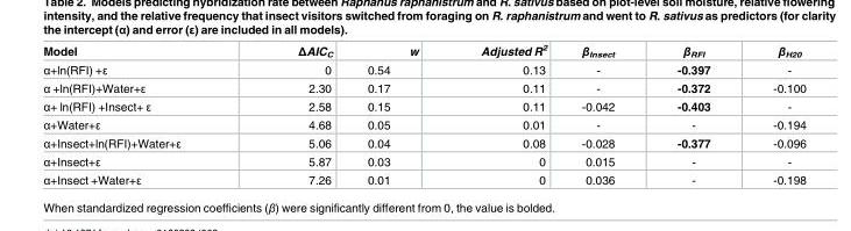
<table><thead><tr><td>Model</td><td>ΔAIC<sub>C</sub></td><td>w</td><td>Adjusted R<sup>2</sup></td><td>β<sub>Insect</sub></td><td>β<sub>RFI</sub></td><td>β<sub>H20</sub></td></tr></thead><tbody><tr><td>α+ln(RFI) +ε</td><td>0</td><td>0.54</td><td>0.13</td><td>-</td><td>-0.397</td><td>-</td></tr><tr><td>α +ln(RFI)+Water+ε</td><td>2.30</td><td>0.17</td><td>0.11</td><td>-</td><td>-0.372</td><td>-0.100</td></tr><tr><td>α+ ln(RFI) +Insect+ ε</td><td>2.58</td><td>0.15</td><td>0.11</td><td>-0.042</td><td>-0.403</td><td>-</td></tr><tr><td>α+Water+ε</td><td>4.68</td><td>0.05</td><td>0.01</td><td>-</td><td>-</td><td>-0.194</td></tr><tr><td>α+Insect+ln(RFI)+Water+ε</td><td>5.06</td><td>0.04</td><td>0.08</td><td>-0.028</td><td>-0.377</td><td>-0.096</td></tr><tr><td>α+Insect+ε</td><td>5.87</td><td>0.03</td><td>0</td><td>0.015</td><td>-</td><td>-</td></tr><tr><td>α+Insect +Water+ε</td><td>7.26</td><td>0.01</td><td>0</td><td>0.036</td><td>-</td><td>-0.198</td></tr></tbody></table>